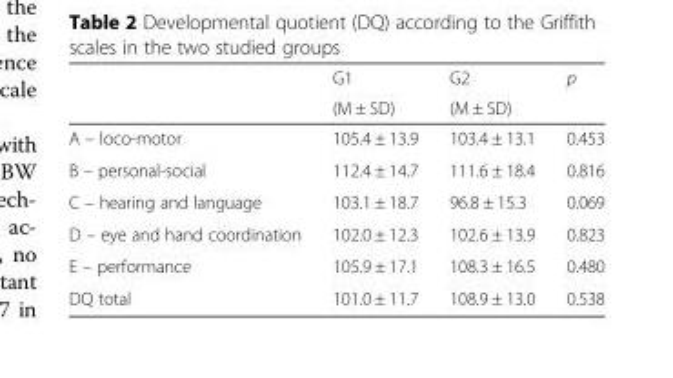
<table><thead><tr><td rowspan="2"></td><td rowspan="2">G1 (M ± SD)</td><td rowspan="2">G2 (M ± SD)</td><td rowspan="2">p</td></tr><tr></tr></thead><tbody><tr><td>A – loco-motor</td><td>105.4 ± 13.9</td><td>103.4 ± 13.1</td><td>0.453</td></tr><tr><td>B – personal-social</td><td>112.4 ± 14.7</td><td>111.6 ± 18.4</td><td>0.816</td></tr><tr><td>C – hearing and language</td><td>103.1 ± 18.7</td><td>96.8 ± 15.3</td><td>0.069</td></tr><tr><td>D – eye and hand coordination</td><td>102.0 ± 12.3</td><td>102.6 ± 13.9</td><td>0.823</td></tr><tr><td>E – performance</td><td>105.9 ± 17.1</td><td>108.3 ± 16.5</td><td>0.480</td></tr><tr><td>DQ total</td><td>101.0 ± 11.7</td><td>108.9 ± 13.0</td><td>0.538</td></tr></tbody></table>